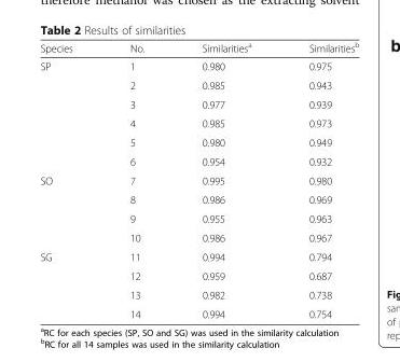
<table><thead><tr><td>Species</td><td>No.</td><td>Similarities<sup>a</sup></td><td>Similarities<sup>b</sup></td></tr></thead><tbody><tr><td rowspan="6">SP</td><td>1</td><td>0.980</td><td>0.975</td></tr><tr><td>2</td><td>0.985</td><td>0.943</td></tr><tr><td>3</td><td>0.977</td><td>0.939</td></tr><tr><td>4</td><td>0.985</td><td>0.973</td></tr><tr><td>5</td><td>0.980</td><td>0.949</td></tr><tr><td>6</td><td>0.954</td><td>0.932</td></tr><tr><td rowspan="4">SO</td><td>7</td><td>0.995</td><td>0.980</td></tr><tr><td>8</td><td>0.986</td><td>0.969</td></tr><tr><td>9</td><td>0.955</td><td>0.963</td></tr><tr><td>10</td><td>0.986</td><td>0.967</td></tr><tr><td rowspan="4">SG</td><td>11</td><td>0.994</td><td>0.794</td></tr><tr><td>12</td><td>0.959</td><td>0.687</td></tr><tr><td>13</td><td>0.982</td><td>0.738</td></tr><tr><td>14</td><td>0.994</td><td>0.754</td></tr></tbody></table>